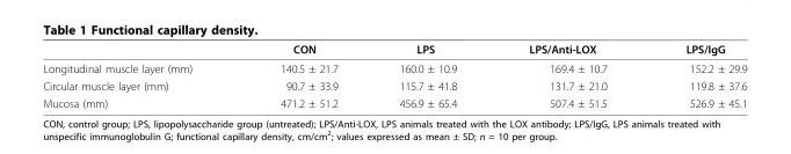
<table><thead><tr><td></td><td>CON</td><td>LPS</td><td>LPS/Anti-LOX</td><td>LPS/IgG</td></tr></thead><tbody><tr><td>Longitudinal muscle layer (mm)</td><td>140.5 ± 21.7</td><td>160.0 ± 10.9</td><td>169.4 ± 10.7</td><td>152.2 ± 29.9</td></tr><tr><td>Circular muscle layer (mm)</td><td>90.7 ± 33.9</td><td>115.7 ± 41.8</td><td>131.7 ± 21.0</td><td>119.8 ± 37.6</td></tr><tr><td>Mucosa (mm)</td><td>471.2 ± 51.2</td><td>456.9 ± 65.4</td><td>507.4 ± 51.5</td><td>526.9 ± 45.1</td></tr></tbody></table>